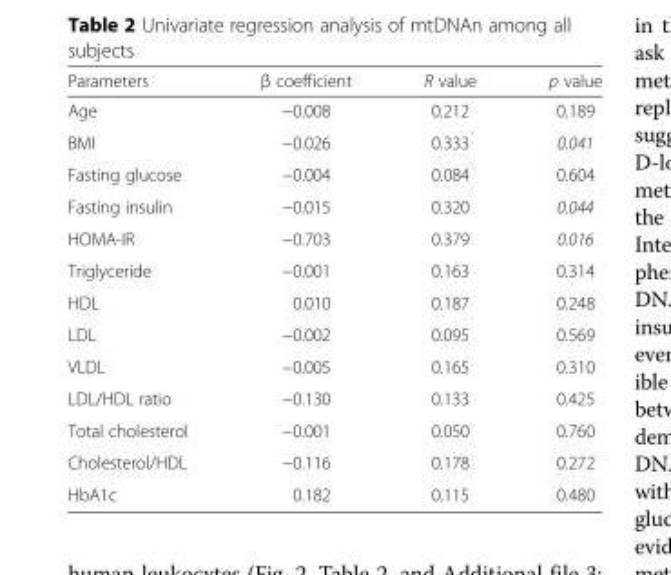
<table><thead><tr><td>Parameters</td><td>β coefficient</td><td>R value</td><td>p value</td></tr></thead><tbody><tr><td>Age</td><td>−0.008</td><td>0.212</td><td>0.189</td></tr><tr><td>BMI</td><td>−0.026</td><td>0.333</td><td>0.041</td></tr><tr><td>Fasting glucose</td><td>−0.004</td><td>0.084</td><td>0.604</td></tr><tr><td>Fasting insulin</td><td>−0.015</td><td>0.320</td><td>0.044</td></tr><tr><td>HOMA-IR</td><td>−0.703</td><td>0.379</td><td>0.016</td></tr><tr><td>Triglyceride</td><td>−0.001</td><td>0.163</td><td>0.314</td></tr><tr><td>HDL</td><td>0.010</td><td>0.187</td><td>0.248</td></tr><tr><td>LDL</td><td>−0.002</td><td>0.095</td><td>0.569</td></tr><tr><td>VLDL</td><td>−0.005</td><td>0.165</td><td>0.310</td></tr><tr><td>LDL/HDL ratio</td><td>−0.130</td><td>0.133</td><td>0.425</td></tr><tr><td>Total cholesterol</td><td>−0.001</td><td>0.050</td><td>0.760</td></tr><tr><td>Cholesterol/HDL</td><td>−0.116</td><td>0.178</td><td>0.272</td></tr><tr><td>HbA1c</td><td>0.182</td><td>0.115</td><td>0.480</td></tr></tbody></table>